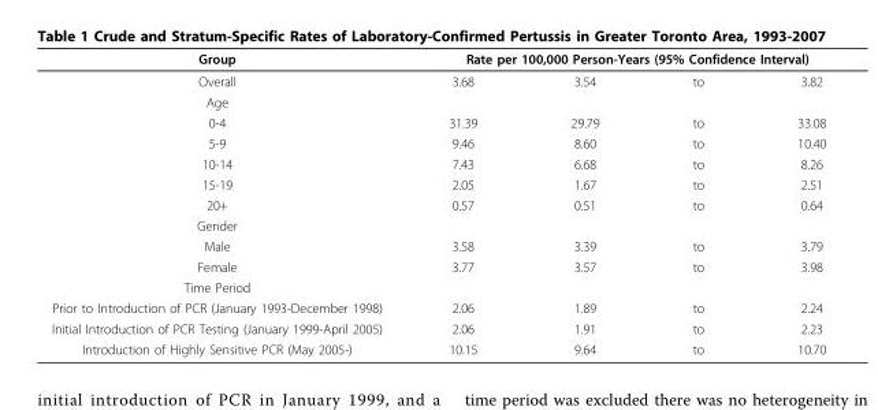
<table><thead><tr><td rowspan="2">Group Overall</td><td colspan="4">Rate per 100,000 Person-Years (95% Confidence Interval)</td></tr><tr><td>3.68</td><td>3.54</td><td>to</td><td>3.82</td></tr></thead><tbody><tr><td colspan="5">Age</td></tr><tr><td>0-4</td><td>31.39</td><td>29.79</td><td>to</td><td>33.08</td></tr><tr><td>5-9</td><td>9.46</td><td>8.60</td><td>to</td><td>10.40</td></tr><tr><td>10-14</td><td>7.43</td><td>6.68</td><td>to</td><td>8.26</td></tr><tr><td>15-19</td><td>2.05</td><td>1.67</td><td>to</td><td>2.51</td></tr><tr><td>20+</td><td>0.57</td><td>0.51</td><td>to</td><td>0.64</td></tr><tr><td colspan="5">Gender</td></tr><tr><td>Male</td><td>3.58</td><td>3.39</td><td>to</td><td>3.79</td></tr><tr><td>Female</td><td>3.77</td><td>3.57</td><td>to</td><td>3.98</td></tr><tr><td colspan="5">Time Period</td></tr><tr><td>Prior to Introduction of PCR (January 1993-December 1998)</td><td>2.06</td><td>1.89</td><td>to</td><td>2.24</td></tr><tr><td>Initial Introduction of PCR Testing (January 1999-April 2005)</td><td>2.06</td><td>1.91</td><td>to</td><td>2.23</td></tr><tr><td>Introduction of Highly Sensitive PCR (May 2005-)</td><td>10.15</td><td>9.64</td><td>to</td><td>10.70</td></tr></tbody></table>